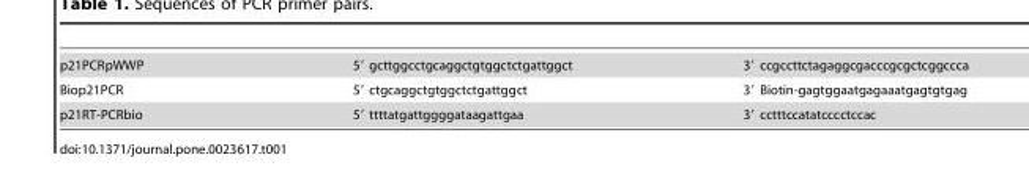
<table><tbody><tr><td>p21PCRpWWP</td><td>5′ gcttggcctgcaggctgtggctctgattggct</td><td>3′ ccgccttctagaggcgacccgcgctcggccca</td></tr><tr><td>Biop21PCR</td><td>5′ ctgcaggctgtggctctgattggct</td><td>3′ Biotin-gagtggaatgagaaatgagtgtgag</td></tr><tr><td>p21RT-PCRbio</td><td>5′ ttttatgattggggataagattgaa</td><td>3′ cctttccatatcccctccac</td></tr></tbody></table>